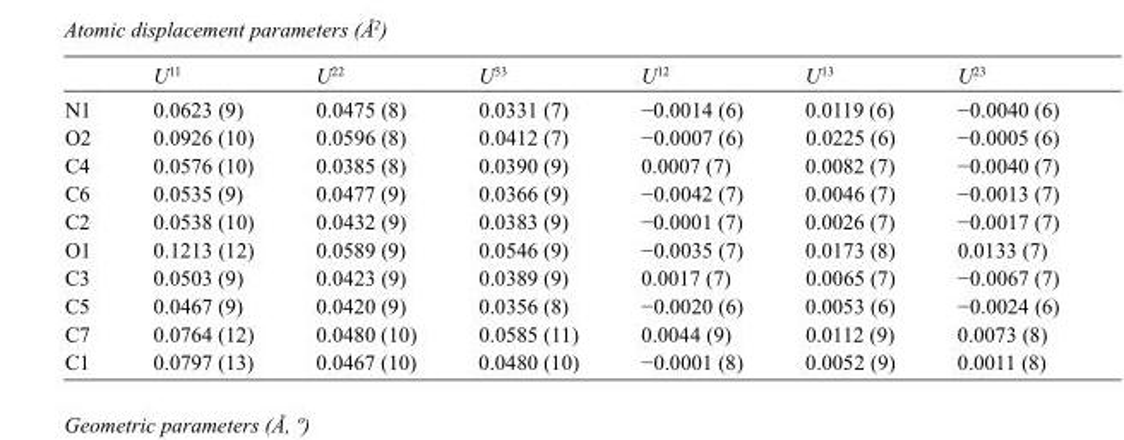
<table><thead><tr><td></td><td>U<sup>11</sup></td><td>U<sup>22</sup></td><td>U<sup>33</sup></td><td>U<sup>12</sup></td><td>U<sup>13</sup></td><td>U<sup>23</sup></td></tr></thead><tbody><tr><td>N1</td><td>0.0623 (9)</td><td>0.0475 (8)</td><td>0.0331 (7)</td><td>−0.0014 (6)</td><td>0.0119 (6)</td><td>−0.0040 (6)</td></tr><tr><td>O2</td><td>0.0926 (10)</td><td>0.0596 (8)</td><td>0.0412 (7)</td><td>−0.0007 (6)</td><td>0.0225 (6)</td><td>−0.0005 (6)</td></tr><tr><td>C4</td><td>0.0576 (10)</td><td>0.0385 (8)</td><td>0.0390 (9)</td><td>0.0007 (7)</td><td>0.0082 (7)</td><td>−0.0040 (7)</td></tr><tr><td>C6</td><td>0.0535 (9)</td><td>0.0477 (9)</td><td>0.0366 (9)</td><td>−0.0042 (7)</td><td>0.0046 (7)</td><td>−0.0013 (7)</td></tr><tr><td>C2</td><td>0.0538 (10)</td><td>0.0432 (9)</td><td>0.0383 (9)</td><td>−0.0001 (7)</td><td>0.0026 (7)</td><td>−0.0017 (7)</td></tr><tr><td>O1</td><td>0.1213 (12)</td><td>0.0589 (9)</td><td>0.0546 (9)</td><td>−0.0035 (7)</td><td>0.0173 (8)</td><td>0.0133 (7)</td></tr><tr><td>C3</td><td>0.0503 (9)</td><td>0.0423 (9)</td><td>0.0389 (9)</td><td>0.0017 (7)</td><td>0.0065 (7)</td><td>−0.0067 (7)</td></tr><tr><td>C5</td><td>0.0467 (9)</td><td>0.0420 (9)</td><td>0.0356 (8)</td><td>−0.0020 (6)</td><td>0.0053 (6)</td><td>−0.0024 (6)</td></tr><tr><td>C7</td><td>0.0764 (12)</td><td>0.0480 (10)</td><td>0.0585 (11)</td><td>0.0044 (9)</td><td>0.0112 (9)</td><td>0.0073 (8)</td></tr><tr><td>C1</td><td>0.0797 (13)</td><td>0.0467 (10)</td><td>0.0480 (10)</td><td>−0.0001 (8)</td><td>0.0052 (9)</td><td>0.0011 (8)</td></tr></tbody></table>